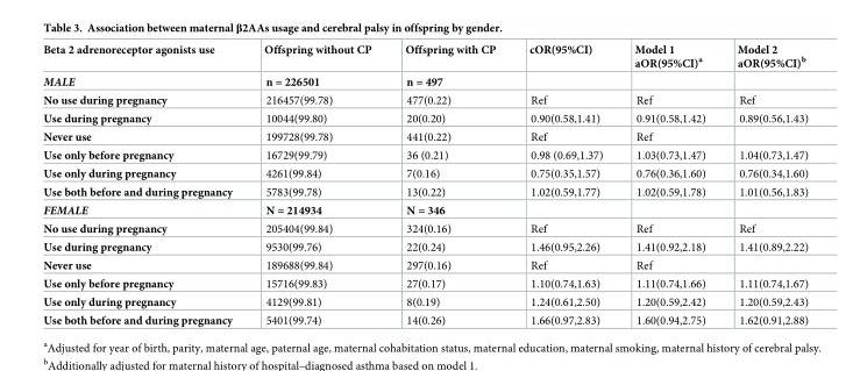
<table><thead><tr><td>Beta 2 adrenoreceptor agonists use</td><td>Offspring without CP</td><td>Offspring with CP</td><td>cOR(95%CI)</td><td>Model 1 aOR(95%CI)<sup>a</sup></td><td>Model 2 aOR(95%CI)<sup>b</sup></td></tr></thead><tbody><tr><td>MALE</td><td>n = 226501</td><td>n = 497</td><td></td><td></td><td></td></tr><tr><td>No use during pregnancy</td><td>216457(99.78)</td><td>477(0.22)</td><td>Ref</td><td>Ref</td><td>Ref</td></tr><tr><td>Use during pregnancy</td><td>10044(99.80)</td><td>20(0.20)</td><td>0.90(0.58,1.41)</td><td>0.91(0.58,1.42)</td><td>0.89(0.56,1.43)</td></tr><tr><td>Never use</td><td>199728(99.78)</td><td>441(0.22)</td><td>Ref</td><td>Ref</td><td></td></tr><tr><td>Use only before pregnancy</td><td>16729(99.79)</td><td>36 (0.21)</td><td>0.98 (0.69,1.37)</td><td>1.03(0.73,1.47)</td><td>1.04(0.73,1.47)</td></tr><tr><td>Use only during pregnancy</td><td>4261(99.84)</td><td>7(0.16)</td><td>0.75(0.35,1.57)</td><td>0.76(0.36,1.60)</td><td>0.76(0.34,1.60)</td></tr><tr><td>Use both before and during pregnancy</td><td>5783(99.78)</td><td>13(0.22)</td><td>1.02(0.59,1.77)</td><td>1.02(0.59,1.78)</td><td>1.01(0.56,1.83)</td></tr><tr><td>FEMALE</td><td>N = 214934</td><td>N = 346</td><td></td><td></td><td></td></tr><tr><td>No use during pregnancy</td><td>205404(99.84)</td><td>324(0.16)</td><td>Ref</td><td>Ref</td><td>Ref</td></tr><tr><td>Use during pregnancy</td><td>9530(99.76)</td><td>22(0.24)</td><td>1.46(0.95,2.26)</td><td>1.41(0.92,2.18)</td><td>1.41(0.89,2.22)</td></tr><tr><td>Never use</td><td>189688(99.84)</td><td>297(0.16)</td><td>Ref</td><td>Ref</td><td></td></tr><tr><td>Use only before pregnancy</td><td>15716(99.83)</td><td>27(0.17)</td><td>1.10(0.74,1.63)</td><td>1.11(0.74,1.66)</td><td>1.11(0.74,1.67)</td></tr><tr><td>Use only during pregnancy</td><td>4129(99.81)</td><td>8(0.19)</td><td>1.24(0.61,2.50)</td><td>1.20(0.59,2.42)</td><td>1.20(0.59,2.43)</td></tr><tr><td>Use both before and during pregnancy</td><td>5401(99.74)</td><td>14(0.26)</td><td>1.66(0.97,2.83)</td><td>1.60(0.94,2.75)</td><td>1.62(0.91,2.88)</td></tr></tbody></table>